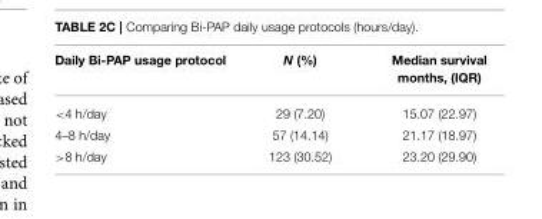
<table><thead><tr><td>Daily Bi-PAP usage protocol</td><td>N (%)</td><td>Median survival months, (IQR)</td></tr></thead><tbody><tr><td>&lt;4 h/day</td><td>29 (7.20)</td><td>15.07 (22.97)</td></tr><tr><td>4–8 h/day</td><td>57 (14.14)</td><td>21.17 (18.97)</td></tr><tr><td>&gt;8 h/day</td><td>123 (30.52)</td><td>23.20 (29.90)</td></tr></tbody></table>